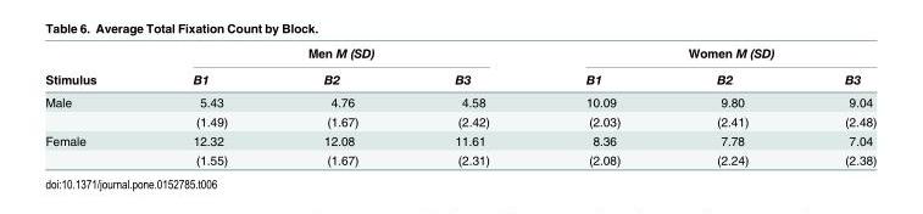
<table><thead><tr><td rowspan="2">Stimulus</td><td colspan="3">Men M (SD)</td><td colspan="3">Women M (SD)</td></tr><tr><td>B1</td><td>B2</td><td>B3</td><td>B1</td><td>B2</td><td>B3</td></tr></thead><tbody><tr><td rowspan="2">Male</td><td>5.43</td><td>4.76</td><td>4.58</td><td>10.09</td><td>9.80</td><td>9.04</td></tr><tr><td>(1.49)</td><td>(1.67)</td><td>(2.42)</td><td>(2.03)</td><td>(2.41)</td><td>(2.48)</td></tr><tr><td rowspan="2">Female</td><td>12.32</td><td>12.08</td><td>11.61</td><td>8.36</td><td>7.78</td><td>7.04</td></tr><tr><td>(1.55)</td><td>(1.67)</td><td>(2.31)</td><td>(2.08)</td><td>(2.24)</td><td>(2.38)</td></tr></tbody></table>